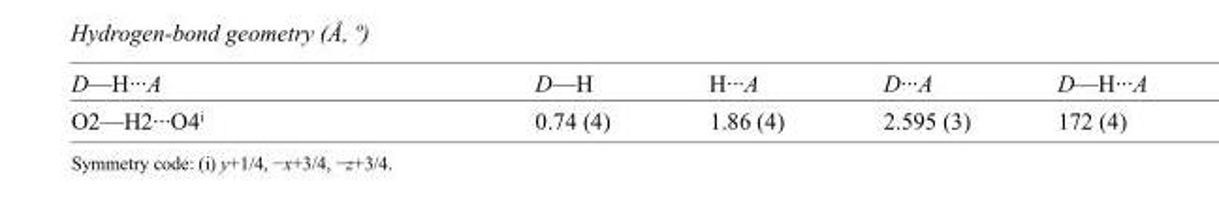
<table><tbody><tr><td>D—H···A</td><td>D—H</td><td>H···A</td><td>D···A</td><td>D—H···A</td></tr><tr><td>O2—H2···O4<sup>i</sup></td><td>0.74 (4)</td><td>1.86 (4)</td><td>2.595 (3)</td><td>172 (4)</td></tr></tbody></table>